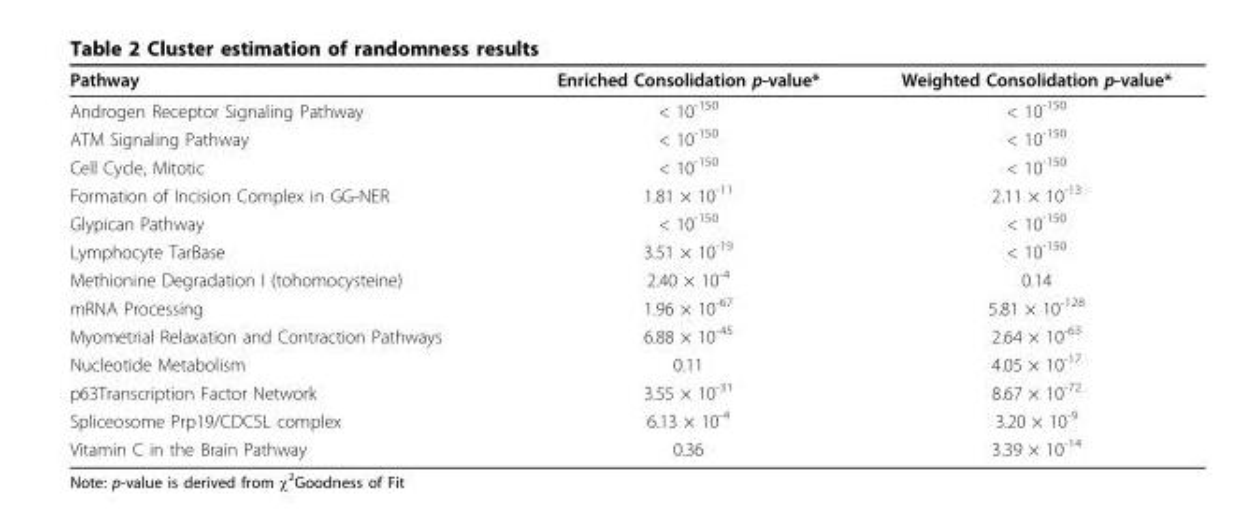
<table><thead><tr><td>Pathway</td><td>Enriched Consolidation p-value*</td><td>Weighted Consolidation p-value*</td></tr></thead><tbody><tr><td>Androgen Receptor Signaling Pathway</td><td>&lt; 10<sup>-150</sup></td><td>&lt; 10<sup>-150</sup></td></tr><tr><td>ATM Signaling Pathway</td><td>&lt; 10<sup>-150</sup></td><td>&lt; 10<sup>-150</sup></td></tr><tr><td>Cell Cycle, Mitotic</td><td>&lt; 10<sup>-150</sup></td><td>&lt; 10<sup>-150</sup></td></tr><tr><td>Formation of Incision Complex in GG-NER</td><td>1.81 × 10<sup>-11</sup></td><td>2.11 × 10<sup>-13</sup></td></tr><tr><td>Glypican Pathway</td><td>&lt; 10<sup>-150</sup></td><td>&lt; 10<sup>-150</sup></td></tr><tr><td>Lymphocyte TarBase</td><td>3.51 × 10<sup>-19</sup></td><td>&lt; 10<sup>-150</sup></td></tr><tr><td>Methionine Degradation I (tohomocysteine)</td><td>2.40 × 10<sup>-4</sup></td><td>0.14</td></tr><tr><td>mRNA Processing</td><td>1.96 × 10<sup>-67</sup></td><td>5.81 × 10<sup>-128</sup></td></tr><tr><td>Myometrial Relaxation and Contraction Pathways</td><td>6.88 × 10<sup>-45</sup></td><td>2.64 × 10<sup>-63</sup></td></tr><tr><td>Nucleotide Metabolism</td><td>0.11</td><td>4.05 × 10<sup>-17</sup></td></tr><tr><td>p63Transcription Factor Network</td><td>3.55 × 10<sup>-31</sup></td><td>8.67 × 10<sup>-72</sup></td></tr><tr><td>Spliceosome Prp19/CDC5L complex</td><td>6.13 × 10<sup>-4</sup></td><td>3.20 × 10<sup>-9</sup></td></tr><tr><td>Vitamin C in the Brain Pathway</td><td>0.36</td><td>3.39 × 10<sup>-14</sup></td></tr></tbody></table>